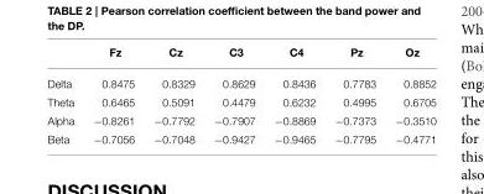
<table><thead><tr><td></td><td>Fz</td><td>Cz</td><td>C3</td><td>C4</td><td>Pz</td><td>Oz</td></tr></thead><tbody><tr><td>Delta</td><td>0.8475</td><td>0.8329</td><td>0.8629</td><td>0.8436</td><td>0.7783</td><td>0.8852</td></tr><tr><td>Theta</td><td>0.6465</td><td>0.5091</td><td>0.4479</td><td>0.6232</td><td>0.4995</td><td>0.6705</td></tr><tr><td>Alpha</td><td>−0.8261</td><td>−0.7792</td><td>−0.7907</td><td>−0.8869</td><td>−0.7373</td><td>−0.3510</td></tr><tr><td>Beta</td><td>−0.7056</td><td>−0.7048</td><td>−0.9427</td><td>−0.9465</td><td>−0.7795</td><td>−0.4771</td></tr></tbody></table>